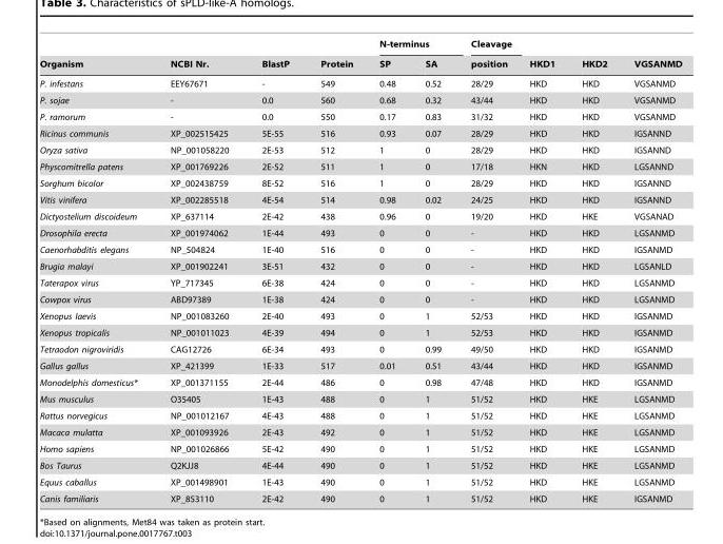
<table><thead><tr><td rowspan="2">Organism</td><td rowspan="2">NCBI Nr.</td><td rowspan="2">BlastP</td><td rowspan="2">Protein</td><td colspan="2">N-terminus</td><td rowspan="2">Cleavage position</td><td rowspan="2">HKD1</td><td rowspan="2">HKD2</td><td rowspan="2">VGSANMD</td></tr><tr><td>SP</td><td>SA</td></tr></thead><tbody><tr><td>P. infestans</td><td>EEY67671</td><td>-</td><td>549</td><td>0.48</td><td>0.52</td><td>28/29</td><td>HKD</td><td>HKD</td><td>VGSANMD</td></tr><tr><td>P. sojae</td><td>-</td><td>0.0</td><td>560</td><td>0.68</td><td>0.32</td><td>43/44</td><td>HKD</td><td>HKD</td><td>VGSANMD</td></tr><tr><td>P. ramorum</td><td>-</td><td>0.0</td><td>550</td><td>0.17</td><td>0.83</td><td>31/32</td><td>HKD</td><td>HKD</td><td>VGSANMD</td></tr><tr><td>Ricinus communis</td><td>XP_002515425</td><td>5E-55</td><td>516</td><td>0.93</td><td>0.07</td><td>28/29</td><td>HKD</td><td>HKD</td><td>IGSANND</td></tr><tr><td>Oryza sativa</td><td>NP_001058220</td><td>2E-53</td><td>512</td><td>1</td><td>0</td><td>28/29</td><td>HKD</td><td>HKD</td><td>IGSANND</td></tr><tr><td>Physcomitrella patens</td><td>XP_001769226</td><td>2E-52</td><td>511</td><td>1</td><td>0</td><td>17/18</td><td>HKN</td><td>HKD</td><td>LGSANND</td></tr><tr><td>Sorghum bicolor</td><td>XP_002438759</td><td>8E-52</td><td>516</td><td>1</td><td>0</td><td>28/29</td><td>HKD</td><td>HKD</td><td>IGSANND</td></tr><tr><td>Vitis vinifera</td><td>XP_002285518</td><td>4E-54</td><td>514</td><td>0.98</td><td>0.02</td><td>24/25</td><td>HKD</td><td>HKD</td><td>IGSANND</td></tr><tr><td>Dictyostelium discoideum</td><td>XP_637114</td><td>2E-42</td><td>438</td><td>0.96</td><td>0</td><td>19/20</td><td>HKD</td><td>HKE</td><td>VGSANAD</td></tr><tr><td>Drosophila erecta</td><td>XP_001974062</td><td>1E-44</td><td>493</td><td>0</td><td>0</td><td>-</td><td>HKD</td><td>HKD</td><td>LGSANMD</td></tr><tr><td>Caenorhabditis elegans</td><td>NP_504824</td><td>1E-40</td><td>516</td><td>0</td><td>0</td><td>-</td><td>HKD</td><td>HKD</td><td>IGSANMD</td></tr><tr><td>Brugia malayi</td><td>XP_001902241</td><td>3E-51</td><td>432</td><td>0</td><td>0</td><td>-</td><td>HKD</td><td>HKD</td><td>LGSANLD</td></tr><tr><td>Taterapox virus</td><td>YP_717345</td><td>6E-38</td><td>424</td><td>0</td><td>0</td><td>-</td><td>HKD</td><td>HKD</td><td>LGSANMD</td></tr><tr><td>Cowpox virus</td><td>ABD97389</td><td>1E-38</td><td>424</td><td>0</td><td>0</td><td>-</td><td>HKD</td><td>HKD</td><td>LGSANMD</td></tr><tr><td>Xenopus laevis</td><td>NP_001083260</td><td>2E-40</td><td>493</td><td>0</td><td>1</td><td>52/53</td><td>HKD</td><td>HKD</td><td>IGSANMD</td></tr><tr><td>Xenopus tropicalis</td><td>NP_001011023</td><td>4E-39</td><td>494</td><td>0</td><td>1</td><td>52/53</td><td>HKD</td><td>HKD</td><td>IGSANMD</td></tr><tr><td>Tetraodon nigroviridis</td><td>CAG12726</td><td>6E-34</td><td>493</td><td>0</td><td>0.99</td><td>49/50</td><td>HKD</td><td>HKD</td><td>IGSANMD</td></tr><tr><td>Gallus gallus</td><td>XP_421399</td><td>1E-33</td><td>517</td><td>0.01</td><td>0.51</td><td>43/44</td><td>HKD</td><td>HKD</td><td>IGSANMD</td></tr><tr><td>Monodelphis domesticus*</td><td>XP_001371155</td><td>2E-44</td><td>486</td><td>0</td><td>0.98</td><td>47/48</td><td>HKD</td><td>HKD</td><td>IGSANMD</td></tr><tr><td>Mus musculus</td><td>O35405</td><td>1E-43</td><td>488</td><td>0</td><td>1</td><td>51/52</td><td>HKD</td><td>HKE</td><td>LGSANMD</td></tr><tr><td>Rattus norvegicus</td><td>NP_001012167</td><td>4E-43</td><td>488</td><td>0</td><td>1</td><td>51/52</td><td>HKD</td><td>HKE</td><td>LGSANMD</td></tr><tr><td>Macaca mulatta</td><td>XP_001093926</td><td>2E-43</td><td>492</td><td>0</td><td>1</td><td>51/52</td><td>HKD</td><td>HKE</td><td>LGSANMD</td></tr><tr><td>Homo sapiens</td><td>NP_001026866</td><td>5E-42</td><td>490</td><td>0</td><td>1</td><td>51/52</td><td>HKD</td><td>HKE</td><td>LGSANMD</td></tr><tr><td>Bos Taurus</td><td>Q2KJJ8</td><td>4E-44</td><td>490</td><td>0</td><td>1</td><td>51/52</td><td>HKD</td><td>HKE</td><td>LGSANMD</td></tr><tr><td>Equus caballus</td><td>XP_001498901</td><td>1E-43</td><td>490</td><td>0</td><td>1</td><td>51/52</td><td>HKD</td><td>HKE</td><td>LGSANMD</td></tr><tr><td>Canis familiaris</td><td>XP_853110</td><td>2E-42</td><td>490</td><td>0</td><td>1</td><td>51/52</td><td>HKD</td><td>HKE</td><td>IGSANMD</td></tr></tbody></table>